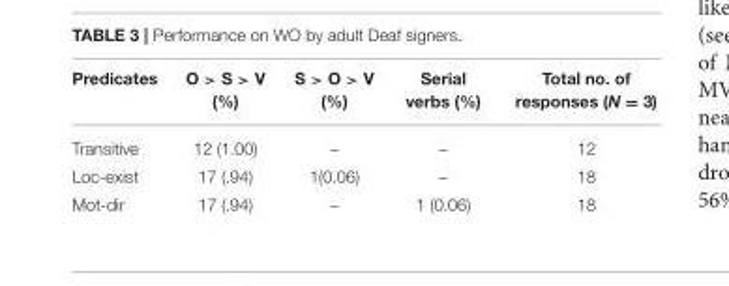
<table><thead><tr><td>Predicates</td><td>O &gt; S &gt; V (%)</td><td>S &gt; O &gt; V (%)</td><td>Serial verbs (%)</td><td>Total no. of responses (N = 3)</td></tr></thead><tbody><tr><td>Transitive</td><td>12 (1.00)</td><td>–</td><td>–</td><td>12</td></tr><tr><td>Loc-exist</td><td>17 (.94)</td><td>1(0.06)</td><td>–</td><td>18</td></tr><tr><td>Mot-dir</td><td>17 (.94)</td><td>–</td><td>1 (0.06)</td><td>18</td></tr></tbody></table>